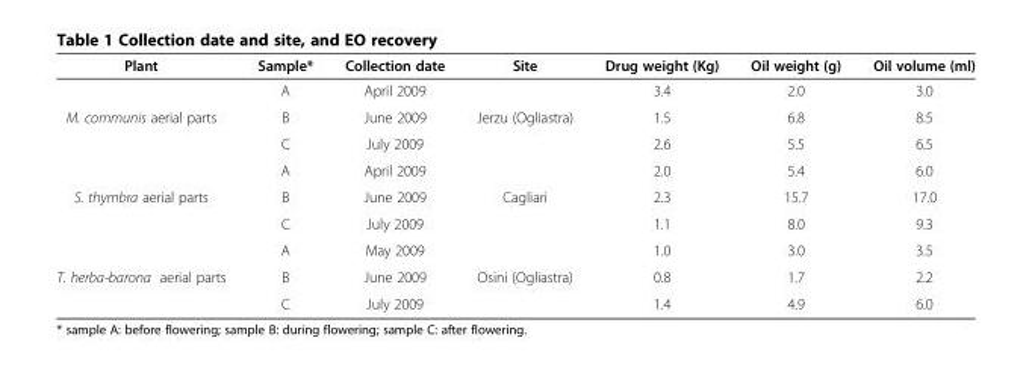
<table><thead><tr><td>Plant</td><td>Sample*</td><td>Collection date</td><td>Site</td><td>Drug weight (Kg)</td><td>Oil weight (g)</td><td>Oil volume (ml)</td></tr></thead><tbody><tr><td></td><td>A</td><td>April 2009</td><td></td><td>3.4</td><td>2.0</td><td>3.0</td></tr><tr><td rowspan="3">M. communis aerial parts</td><td>B</td><td>June 2009</td><td>Jerzu (Ogliastra)</td><td>1.5</td><td>6.8</td><td>8.5</td></tr><tr><td>C</td><td>July 2009</td><td></td><td>2.6</td><td>5.5</td><td>6.5</td></tr><tr><td>A</td><td>April 2009</td><td></td><td>2.0</td><td>5.4</td><td>6.0</td></tr><tr><td rowspan="3">S. thymbra aerial parts</td><td>B</td><td>June 2009</td><td>Cagliari</td><td>2.3</td><td>15.7</td><td>17.0</td></tr><tr><td>C</td><td>July 2009</td><td></td><td>1.1</td><td>8.0</td><td>9.3</td></tr><tr><td>A</td><td>May 2009</td><td></td><td>1.0</td><td>3.0</td><td>3.5</td></tr><tr><td rowspan="2">T. herba-barona aerial parts</td><td>B</td><td>June 2009</td><td>Osini (Ogliastra)</td><td>0.8</td><td>1.7</td><td>2.2</td></tr><tr><td>C</td><td>July 2009</td><td></td><td>1.4</td><td>4.9</td><td>6.0</td></tr></tbody></table>